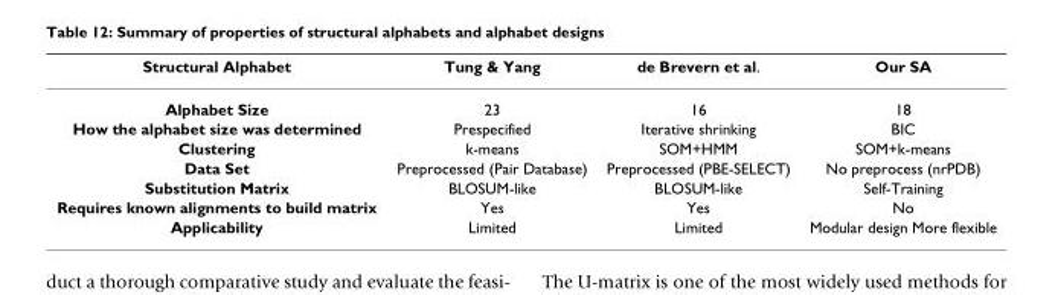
<table><thead><tr><td>Structural Alphabet</td><td>Tung &amp; Yang</td><td>de Brevern et al.</td><td>Our SA</td></tr></thead><tbody><tr><td>Alphabet Size</td><td>23</td><td>16</td><td>18</td></tr><tr><td>How the alphabet size was determined</td><td>Prespecified</td><td>Iterative shrinking</td><td>BIC</td></tr><tr><td>Clustering</td><td>k-means</td><td>SOM+HMM</td><td>SOM+k-means</td></tr><tr><td>Data Set</td><td>Preprocessed (Pair Database)</td><td>Preprocessed (PBE-SELECT)</td><td>No preprocess (nrPDB)</td></tr><tr><td>Substitution Matrix</td><td>BLOSUM-like</td><td>BLOSUM-like</td><td>Self-Training</td></tr><tr><td>Requires known alignments to build matrix</td><td>Yes</td><td>Yes</td><td>No</td></tr><tr><td>Applicability</td><td>Limited</td><td>Limited</td><td>Modular design More flexible</td></tr></tbody></table>